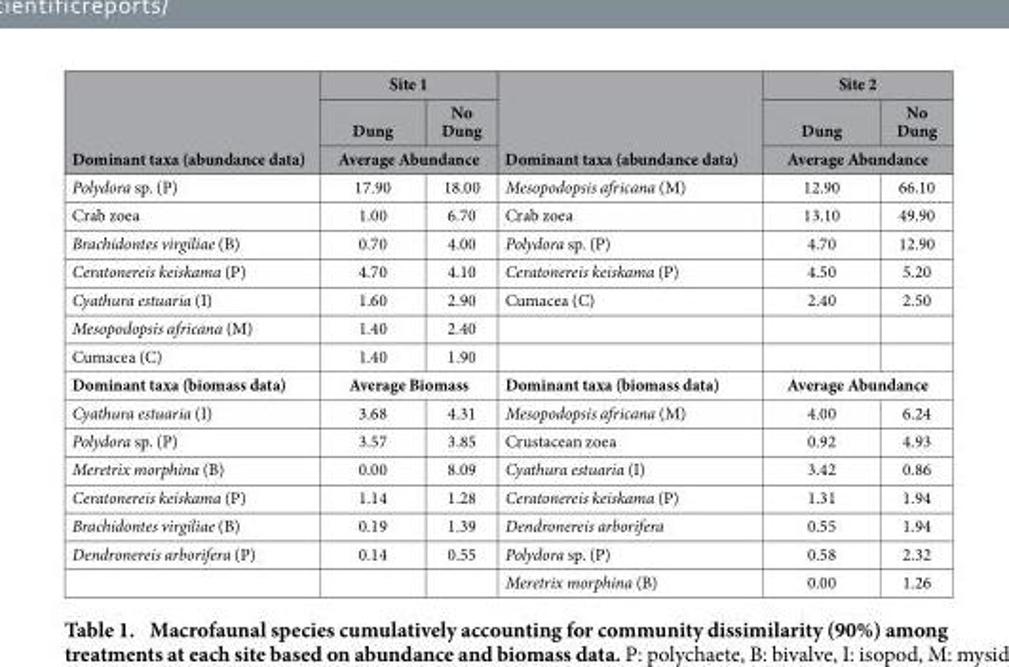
<table><thead><tr><td rowspan="3">Dominant taxa (abundance data)</td><td colspan="2">Site 1</td><td rowspan="3">Dominant taxa (abundance data)</td><td colspan="2">Site 2</td></tr><tr><td>Dung</td><td>No Dung</td><td>Dung</td><td>No Dung</td></tr><tr><td colspan="2">Average Abundance</td><td colspan="2">Average Abundance</td></tr></thead><tbody><tr><td>Polydora sp. (P)</td><td>17.90</td><td>18.00</td><td>Mesopodopsis africana (M)</td><td>12.90</td><td>66.10</td></tr><tr><td>Crab zoea</td><td>1.00</td><td>6.70</td><td>Crab zoea</td><td>13.10</td><td>49.90</td></tr><tr><td>Brachidontes virgiliae (B)</td><td>0.70</td><td>4.00</td><td>Polydora sp. (P)</td><td>4.70</td><td>12.90</td></tr><tr><td>Ceratonereis keiskama (P)</td><td>4.70</td><td>4.10</td><td>Ceratonereis keiskama (P)</td><td>4.50</td><td>5.20</td></tr><tr><td>Cyathura estuaria (I)</td><td>1.60</td><td>2.90</td><td>Cumacea (C)</td><td>2.40</td><td>2.50</td></tr><tr><td>Mesopodopsis africana (M)</td><td>1.40</td><td>2.40</td><td></td><td></td><td></td></tr><tr><td>Cumacea (C)</td><td>1.40</td><td>1.90</td><td></td><td></td><td></td></tr><tr><td>Dominant taxa (biomass data)</td><td colspan="2">Average Biomass</td><td>Dominant taxa (biomass data)</td><td colspan="2">Average Abundance</td></tr><tr><td>Cyathura estuaria (I)</td><td>3.68</td><td>4.31</td><td>Mesopodopsis africana (M)</td><td>4.00</td><td>6.24</td></tr><tr><td>Polydora sp. (P)</td><td>3.57</td><td>3.85</td><td>Crustacean zoea</td><td>0.92</td><td>4.93</td></tr><tr><td>Meretrix morphina (B)</td><td>0.00</td><td>8.09</td><td>Cyathura estuaria (I)</td><td>3.42</td><td>0.86</td></tr><tr><td>Ceratonereis keiskama (P)</td><td>1.14</td><td>1.28</td><td>Ceratonereis keiskama (P)</td><td>1.31</td><td>1.94</td></tr><tr><td>Brachidontes virgiliae (B)</td><td>0.19</td><td>1.39</td><td>Dendronereis arborifera</td><td>0.55</td><td>1.94</td></tr><tr><td rowspan="2">Dendronereis arborifera (P)</td><td>0.14</td><td>0.55</td><td>Polydora sp. (P)</td><td>0.58</td><td>2.32</td></tr><tr><td></td><td></td><td>Meretrix morphina (B)</td><td>0.00</td><td>1.26</td></tr></tbody></table>